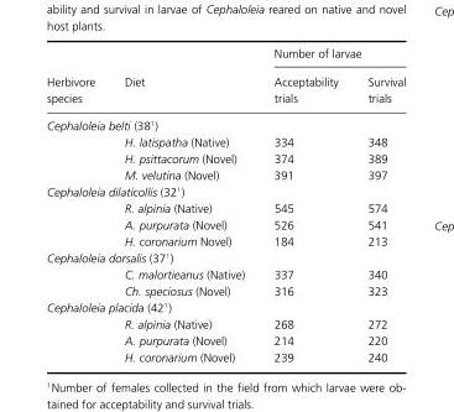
<table><thead><tr><td rowspan="2">Herbivore species</td><td rowspan="2">Diet</td><td colspan="2">Number of larvae</td></tr><tr><td>Acceptability trials</td><td>Survival trials</td></tr></thead><tbody><tr><td colspan="4">Cephaloleia belti (38<sup>1</sup>)</td></tr><tr><td></td><td>H. latispatha (Native)</td><td>334</td><td>348</td></tr><tr><td></td><td>H. psittacorum (Novel)</td><td>374</td><td>389</td></tr><tr><td></td><td>M. velutina (Novel)</td><td>391</td><td>397</td></tr><tr><td colspan="4">Cephaloleia dilaticollis (32<sup>1</sup>)</td></tr><tr><td></td><td>R. alpinia (Native)</td><td>545</td><td>574</td></tr><tr><td></td><td>A. purpurata (Novel)</td><td>526</td><td>541</td></tr><tr><td></td><td>H. coronarium Novel)</td><td>184</td><td>213</td></tr><tr><td colspan="4">Cephaloleia dorsalis (37<sup>1</sup>)</td></tr><tr><td></td><td>C. malortieanus (Native)</td><td>337</td><td>340</td></tr><tr><td></td><td>Ch. speciosus (Novel)</td><td>316</td><td>323</td></tr><tr><td colspan="4">Cephaloleia placida (42<sup>1</sup>)</td></tr><tr><td></td><td>R. alpinia (Native)</td><td>268</td><td>272</td></tr><tr><td></td><td>A. purpurata (Novel)</td><td>214</td><td>220</td></tr><tr><td></td><td>H. coronarium (Novel)</td><td>239</td><td>240</td></tr></tbody></table>